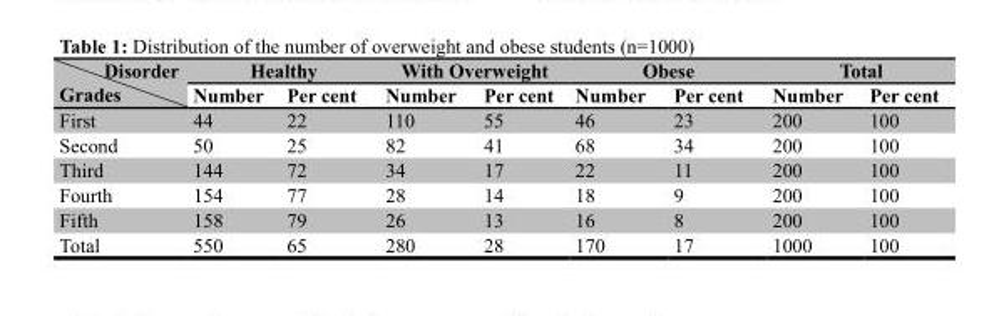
<table><thead><tr><td rowspan="2">Disorder Grades</td><td colspan="2">Healthy</td><td colspan="2">With Overweight</td><td colspan="2">Obese</td><td colspan="2">Total</td></tr><tr><td>Number</td><td>Per cent</td><td>Number</td><td>Per cent</td><td>Number</td><td>Per cent</td><td>Number</td><td>Per cent</td></tr></thead><tbody><tr><td>First</td><td>44</td><td>22</td><td>110</td><td>55</td><td>46</td><td>23</td><td>200</td><td>100</td></tr><tr><td>Second</td><td>50</td><td>25</td><td>82</td><td>41</td><td>68</td><td>34</td><td>200</td><td>100</td></tr><tr><td>Third</td><td>144</td><td>72</td><td>34</td><td>17</td><td>22</td><td>11</td><td>200</td><td>100</td></tr><tr><td>Fourth</td><td>154</td><td>77</td><td>28</td><td>14</td><td>18</td><td>9</td><td>200</td><td>100</td></tr><tr><td>Fifth</td><td>158</td><td>79</td><td>26</td><td>13</td><td>16</td><td>8</td><td>200</td><td>100</td></tr><tr><td>Total</td><td>550</td><td>65</td><td>280</td><td>28</td><td>170</td><td>17</td><td>1000</td><td>100</td></tr></tbody></table>